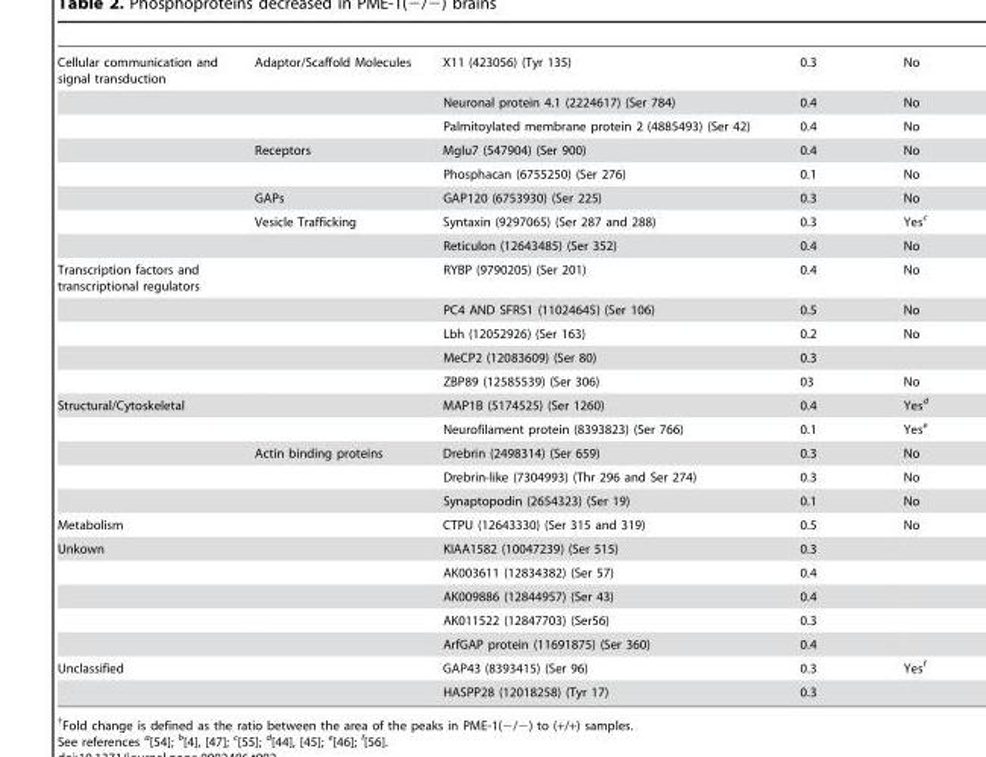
<table><tbody><tr><td rowspan="8">Cellular communication and signal transduction</td><td>Adaptor/Scaffold Molecules</td><td>X11 (423056) (Tyr 135)</td><td>0.3</td><td>No</td></tr><tr><td></td><td>Neuronal protein 4.1 (2224617) (Ser 784)</td><td>0.4</td><td>No</td></tr><tr><td></td><td>Palmitoylated membrane protein 2 (4885493) (Ser 42)</td><td>0.4</td><td>No</td></tr><tr><td>Receptors</td><td>Mglu7 (547904) (Ser 900)</td><td>0.4</td><td>No</td></tr><tr><td></td><td>Phosphacan (6755250) (Ser 276)</td><td>0.1</td><td>No</td></tr><tr><td>GAPs</td><td>GAP120 (6753930) (Ser 225)</td><td>0.3</td><td>No</td></tr><tr><td>Vesicle Trafficking</td><td>Syntaxin (9297065) (Ser 287 and 288)</td><td>0.3</td><td>Yes<sup>c</sup></td></tr><tr><td></td><td>Reticulon (12643485) (Ser 352)</td><td>0.4</td><td>No</td></tr><tr><td rowspan="5">Transcription factors and transcriptional regulators</td><td></td><td>RYBP (9790205) (Ser 201)</td><td>0.4</td><td>No</td></tr><tr><td></td><td>PC4 AND SFRS1 (11024645) (Ser 106)</td><td>0.5</td><td>No</td></tr><tr><td></td><td>Lbh (12052926) (Ser 163)</td><td>0.2</td><td>No</td></tr><tr><td></td><td>MeCP2 (12083609) (Ser 80)</td><td>0.3</td><td></td></tr><tr><td></td><td>ZBP89 (12585539) (Ser 306)</td><td>03</td><td>No</td></tr><tr><td rowspan="5">Structural/Cytoskeletal</td><td></td><td>MAP1B (5174525) (Ser 1260)</td><td>0.4</td><td>Yes<sup>d</sup></td></tr><tr><td></td><td>Neurofilament protein (8393823) (Ser 766)</td><td>0.1</td><td>Yes<sup>e</sup></td></tr><tr><td>Actin binding proteins</td><td>Drebrin (2498314) (Ser 659)</td><td>0.3</td><td>No</td></tr><tr><td></td><td>Drebrin-like (7304993) (Thr 296 and Ser 274)</td><td>0.3</td><td>No</td></tr><tr><td></td><td>Synaptopodin (2654323) (Ser 19)</td><td>0.1</td><td>No</td></tr><tr><td>Metabolism</td><td></td><td>CTPU (12643330) (Ser 315 and 319)</td><td>0.5</td><td>No</td></tr><tr><td rowspan="5">Unkown</td><td></td><td>KIAA1582 (10047239) (Ser 515)</td><td>0.3</td><td></td></tr><tr><td></td><td>AK003611 (12834382) (Ser 57)</td><td>0.4</td><td></td></tr><tr><td></td><td>AK009886 (12844957) (Ser 43)</td><td>0.4</td><td></td></tr><tr><td></td><td>AK011522 (12847703) (Ser56)</td><td>0.3</td><td></td></tr><tr><td></td><td>ArfGAP protein (11691875) (Ser 360)</td><td>0.4</td><td></td></tr><tr><td rowspan="2">Unclassified</td><td></td><td>GAP43 (8393415) (Ser 96)</td><td>0.3</td><td>Yes<sup>f</sup></td></tr><tr><td></td><td>HASPP28 (12018258) (Tyr 17)</td><td>0.3</td><td></td></tr></tbody></table>